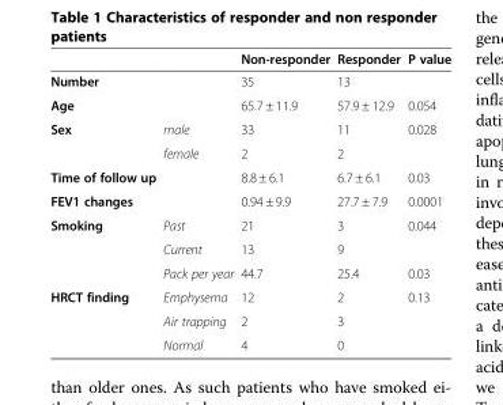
<table><thead><tr><td></td><td></td><td>Non-responder</td><td>Responder</td><td>P value</td></tr></thead><tbody><tr><td>Number</td><td></td><td>35</td><td>13</td><td></td></tr><tr><td>Age</td><td></td><td>65.7 ± 11.9</td><td>57.9 ± 12.9</td><td>0.054</td></tr><tr><td rowspan="2">Sex</td><td>male</td><td>33</td><td>11</td><td>0.028</td></tr><tr><td>female</td><td>2</td><td>2</td><td></td></tr><tr><td>Time of follow up</td><td></td><td>8.8 ± 6.1</td><td>6.7 ± 6.1</td><td>0.03</td></tr><tr><td>FEV1 changes</td><td></td><td>0.94 ± 9.9</td><td>27.7 ± 7.9</td><td>0.0001</td></tr><tr><td rowspan="3">Smoking</td><td>Past</td><td>21</td><td>3</td><td>0.044</td></tr><tr><td>Current</td><td>13</td><td>9</td><td></td></tr><tr><td>Pack per year</td><td>44.7</td><td>25.4</td><td>0.03</td></tr><tr><td rowspan="3">HRCT finding</td><td>Emphysema</td><td>12</td><td>2</td><td>0.13</td></tr><tr><td>Air trapping</td><td>2</td><td>3</td><td></td></tr><tr><td>Normal</td><td>4</td><td>0</td><td></td></tr></tbody></table>